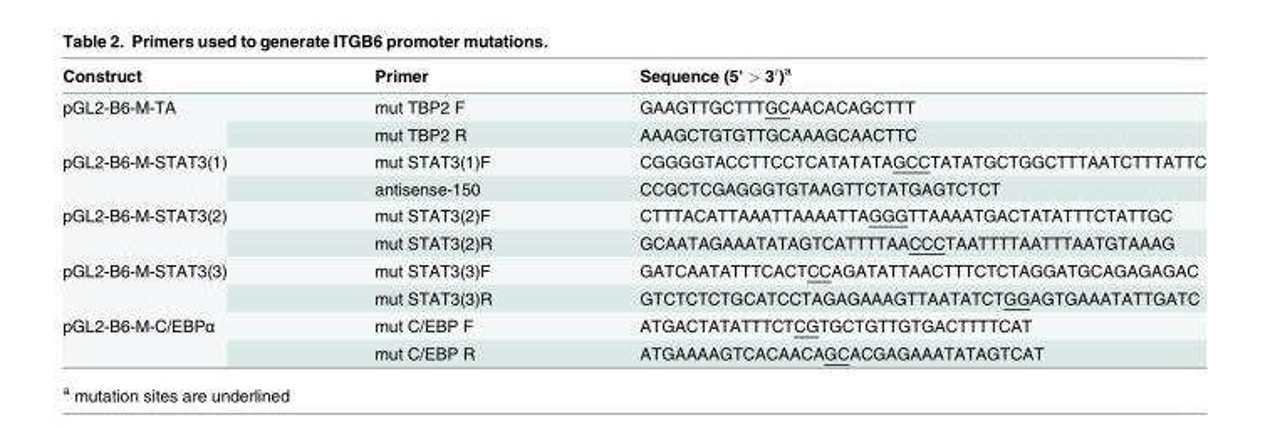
<table><thead><tr><td>Construct</td><td>Primer</td><td>Sequence (5&#x27; &gt; 3′)<sup>a</sup></td></tr></thead><tbody><tr><td rowspan="2">pGL2-B6-M-TA</td><td>mut TBP2 F</td><td>GAAGTTGCTTTGCAACACAGCTTT</td></tr><tr><td>mut TBP2 R</td><td>AAAGCTGTGTTGCAAAGCAACTTC</td></tr><tr><td rowspan="2">pGL2-B6-M-STAT3(1)</td><td>mut STAT3(1)F</td><td>CGGGGTACCTTCCTCATATATAGCCTATATGCTGGCTTTAATCTTTATTC</td></tr><tr><td>antisense-150</td><td>CCGCTCGAGGGTGTAAGTTCTATGAGTCTCT</td></tr><tr><td rowspan="2">pGL2-B6-M-STAT3(2)</td><td>mut STAT3(2)F</td><td>CTTTACATTAAATTAAAATTAGGGTTAAAATGACTATATTTCTATTGC</td></tr><tr><td>mut STAT3(2)R</td><td>GCAATAGAAATATAGTCATTTTAACCCTAATTTTAATTTAATGTAAAG</td></tr><tr><td rowspan="2">pGL2-B6-M-STAT3(3)</td><td>mut STAT3(3)F</td><td>GATCAATATTTCACTCCAGATATTAACTTTCTCTAGGATGCAGAGAGAC</td></tr><tr><td>mut STAT3(3)R</td><td>GTCTCTCTGCATCCTAGAGAAAGTTAATATCTGGAGTGAAATATTGATC</td></tr><tr><td rowspan="2">pGL2-B6-M-C/EBPα</td><td>mut C/EBP F</td><td>ATGACTATATTTCTCGTGCTGTTGTGACTTTTCAT</td></tr><tr><td>mut C/EBP R</td><td>ATGAAAAGTCACAACAGCACGAGAAATATAGTCAT</td></tr></tbody></table>